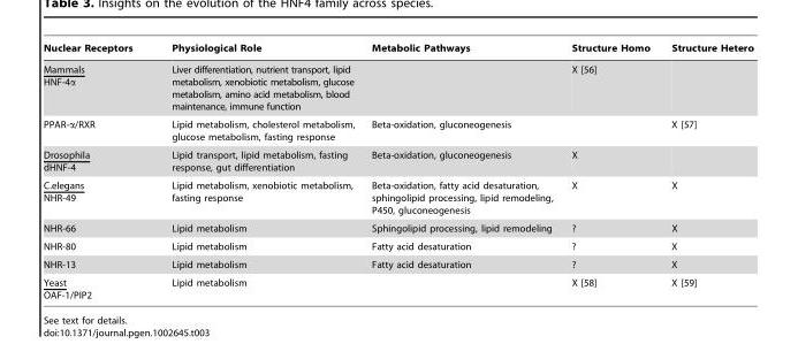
<table><thead><tr><td>Nuclear Receptors</td><td>Physiological Role</td><td>Metabolic Pathways</td><td>Structure Homo</td><td>Structure Hetero</td></tr></thead><tbody><tr><td>Mammals HNF-4α</td><td>Liver differentiation, nutrient transport, lipid metabolism, xenobiotic metabolism, glucose metabolism, amino acid metabolism, blood maintenance, immune function</td><td></td><td>X [56]</td><td></td></tr><tr><td>PPAR-α/RXR</td><td>Lipid metabolism, cholesterol metabolism, glucose metabolism, fasting response</td><td>Beta-oxidation, gluconeogenesis</td><td></td><td>X [57]</td></tr><tr><td>Drosophila dHNF-4</td><td>Lipid transport, lipid metabolism, fasting response, gut differentiation</td><td>Beta-oxidation, gluconeogenesis</td><td>X</td><td></td></tr><tr><td>C.elegans NHR-49</td><td>Lipid metabolism, xenobiotic metabolism, fasting response</td><td>Beta-oxidation, fatty acid desaturation, sphingolipid processing, lipid remodeling, P450, gluconeogenesis</td><td>X</td><td>X</td></tr><tr><td>NHR-66</td><td>Lipid metabolism</td><td>Sphingolipid processing, lipid remodeling</td><td>?</td><td>X</td></tr><tr><td>NHR-80</td><td>Lipid metabolism</td><td>Fatty acid desaturation</td><td>?</td><td>X</td></tr><tr><td>NHR-13</td><td>Lipid metabolism</td><td>Fatty acid desaturation</td><td>?</td><td>X</td></tr><tr><td>Yeast OAF-1/PIP2</td><td>Lipid metabolism</td><td></td><td>X [58]</td><td>X [59]</td></tr></tbody></table>